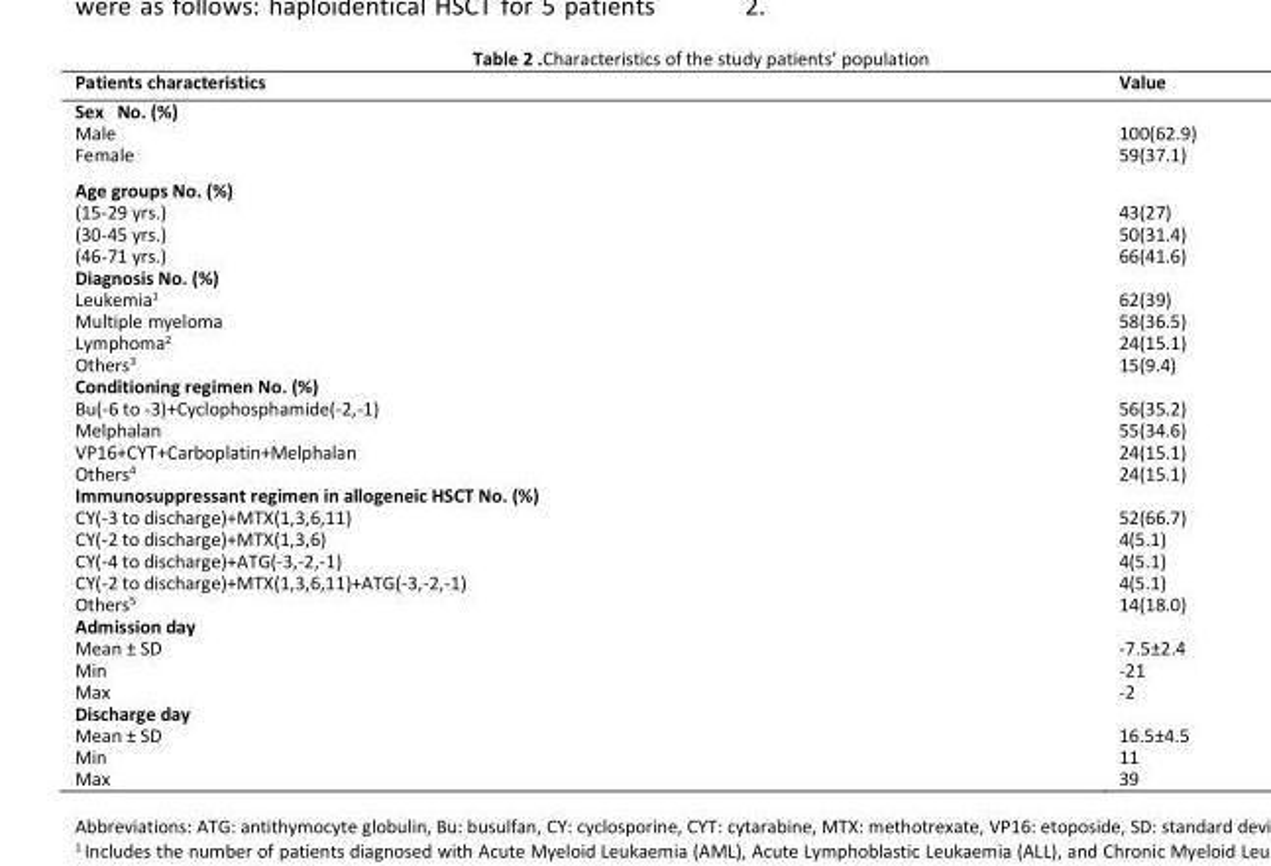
<table><thead><tr><td>Patients characteristics</td><td>Value</td></tr></thead><tbody><tr><td>Sex No. (%) Male Female</td><td>100(62.9) 59(37.1)</td></tr><tr><td>Age groups No. (%) (15-29 yrs.) (30-45 yrs.) (46-71 yrs.)</td><td>43(27) 50(31.4) 66(41.6)</td></tr><tr><td>Diagnosis No. (%) Leukemia<sup>1</sup> Multiple myeloma Lymphoma<sup>2</sup> Others<sup>3</sup></td><td>62(39) 58(36.5) 24(15.1) 15(9.4)</td></tr><tr><td>Conditioning regimen No. (%) Bu(-6 to -3)+Cyclophosphamide(-2,-1) Melphalan VP16+CYT+Carboplatin+Melphalan Others<sup>4</sup></td><td>56(35.2) 55(34.6) 24(15.1) 24(15.1)</td></tr><tr><td>Immunosuppressant regimen in allogeneic HSCT No. (%) CY(-3 to discharge)+MTX(1,3,6,11) CY(-2 to discharge)+MTX(1,3,6) CY(-4 to discharge)+ATG(-3,-2,-1) CY(-2 to discharge)+MTX(1,3,6,11)+ATG(-3,-2,-1) Others<sup>5</sup></td><td>52(66.7) 4(5.1) 4(5.1) 4(5.1) 14(18.0)</td></tr><tr><td>Admission day Mean ± SD Min Max</td><td>-7.5±2.4 -21 -2</td></tr><tr><td>Discharge day Mean ± SD Min Max</td><td>16.5±4.5 11 39</td></tr></tbody></table>